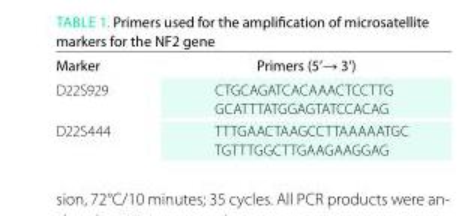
<table><thead><tr><td>Marker</td><td>Primers (5’→ 3’)</td></tr></thead><tbody><tr><td>D22S929</td><td>CTGCAGATCACAAACTCCTTG GCATTTATGGAGTATCCACAG</td></tr><tr><td>D22S444</td><td>TTTGAACTAAGCCTTAAAAATGC TGTTTGGCTTGAAGAAGGAG</td></tr></tbody></table>